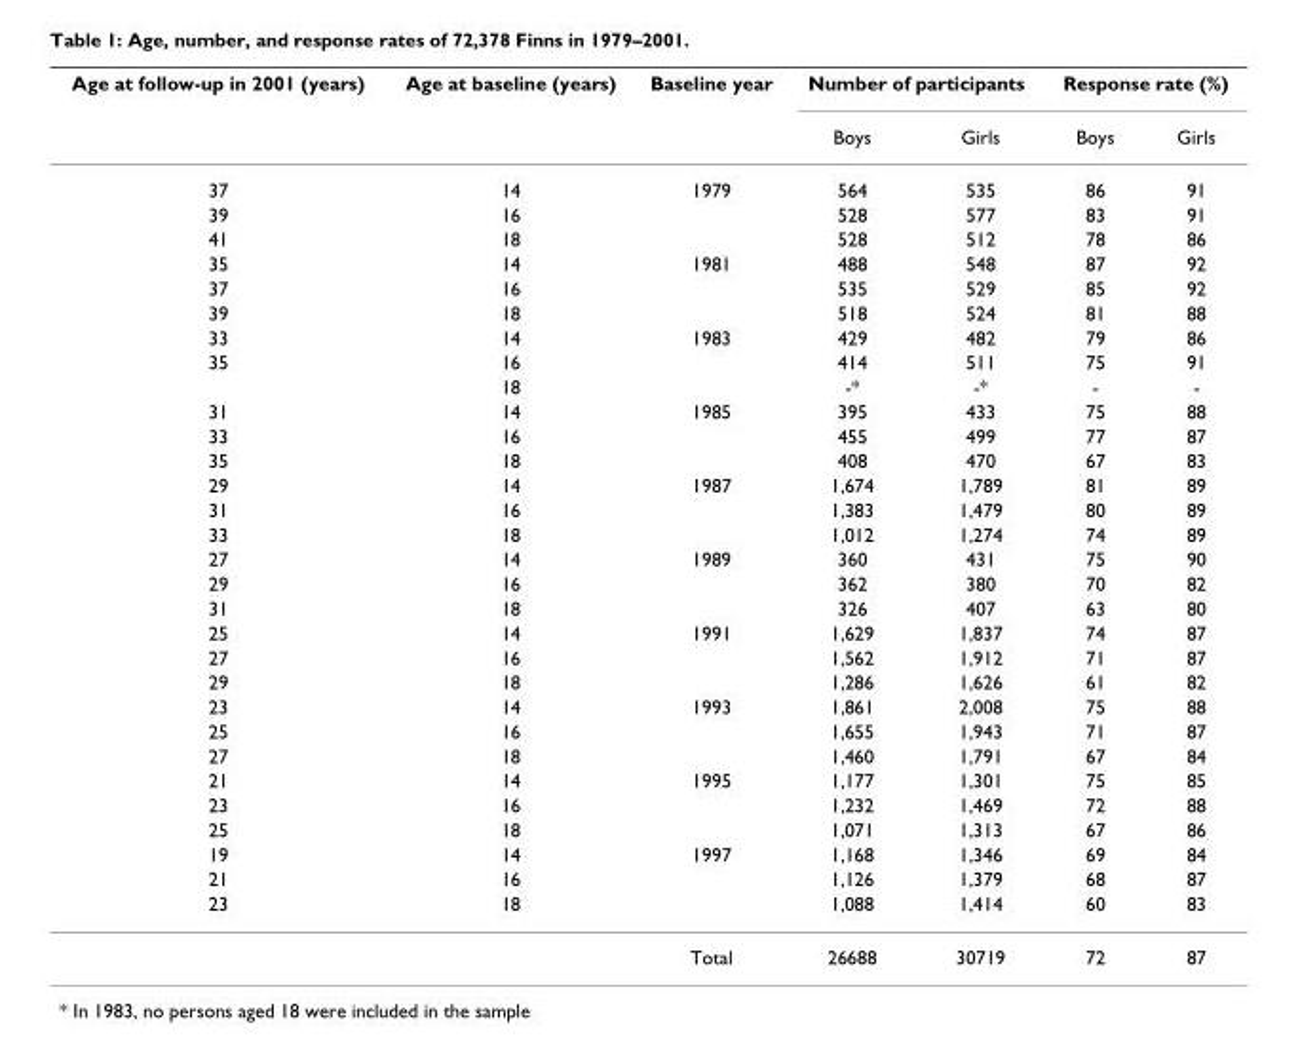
<table><thead><tr><td rowspan="2">Age at follow-up in 2001 (years)</td><td rowspan="2">Age at baseline (years)</td><td rowspan="2">Baseline year</td><td colspan="2">Number of participants</td><td colspan="2">Response rate (%)</td></tr><tr><td>Boys</td><td>Girls</td><td>Boys</td><td>Girls</td></tr></thead><tbody><tr><td>37</td><td>14</td><td>1979</td><td>564</td><td>535</td><td>86</td><td>91</td></tr><tr><td>39</td><td>16</td><td></td><td>528</td><td>577</td><td>83</td><td>91</td></tr><tr><td>41</td><td>18</td><td></td><td>528</td><td>512</td><td>78</td><td>86</td></tr><tr><td>35</td><td>14</td><td>1981</td><td>488</td><td>548</td><td>87</td><td>92</td></tr><tr><td>37</td><td>16</td><td></td><td>535</td><td>529</td><td>85</td><td>92</td></tr><tr><td>39</td><td>18</td><td></td><td>518</td><td>524</td><td>81</td><td>88</td></tr><tr><td>33</td><td>14</td><td>1983</td><td>429</td><td>482</td><td>79</td><td>86</td></tr><tr><td rowspan="2">35</td><td>16</td><td></td><td>414</td><td>511</td><td>75</td><td>91</td></tr><tr><td>18</td><td></td><td>-*</td><td>-*</td><td>-</td><td>-</td></tr><tr><td>31</td><td>14</td><td>1985</td><td>395</td><td>433</td><td>75</td><td>88</td></tr><tr><td>33</td><td>16</td><td></td><td>455</td><td>499</td><td>77</td><td>87</td></tr><tr><td>35</td><td>18</td><td></td><td>408</td><td>470</td><td>67</td><td>83</td></tr><tr><td>29</td><td>14</td><td>1987</td><td>1,674</td><td>1,789</td><td>81</td><td>89</td></tr><tr><td>31</td><td>16</td><td></td><td>1,383</td><td>1,479</td><td>80</td><td>89</td></tr><tr><td>33</td><td>18</td><td></td><td>1,012</td><td>1,274</td><td>74</td><td>89</td></tr><tr><td>27</td><td>14</td><td>1989</td><td>360</td><td>431</td><td>75</td><td>90</td></tr><tr><td>29</td><td>16</td><td></td><td>362</td><td>380</td><td>70</td><td>82</td></tr><tr><td>31</td><td>18</td><td></td><td>326</td><td>407</td><td>63</td><td>80</td></tr><tr><td>25</td><td>14</td><td>1991</td><td>1,629</td><td>1,837</td><td>74</td><td>87</td></tr><tr><td>27</td><td>16</td><td></td><td>1,562</td><td>1,912</td><td>71</td><td>87</td></tr><tr><td>29</td><td>18</td><td></td><td>1,286</td><td>1,626</td><td>61</td><td>82</td></tr><tr><td>23</td><td>14</td><td>1993</td><td>1,861</td><td>2,008</td><td>75</td><td>88</td></tr><tr><td>25</td><td>16</td><td></td><td>1,655</td><td>1,943</td><td>71</td><td>87</td></tr><tr><td>27</td><td>18</td><td></td><td>1,460</td><td>1,791</td><td>67</td><td>84</td></tr><tr><td>21</td><td>14</td><td>1995</td><td>1,177</td><td>1,301</td><td>75</td><td>85</td></tr><tr><td>23</td><td>16</td><td></td><td>1,232</td><td>1,469</td><td>72</td><td>88</td></tr><tr><td>25</td><td>18</td><td></td><td>1,071</td><td>1,313</td><td>67</td><td>86</td></tr><tr><td>19</td><td>14</td><td>1997</td><td>1,168</td><td>1,346</td><td>69</td><td>84</td></tr><tr><td>21</td><td>16</td><td></td><td>1,126</td><td>1,379</td><td>68</td><td>87</td></tr><tr><td rowspan="2">23</td><td>18</td><td></td><td>1,088</td><td>1,414</td><td>60</td><td>83</td></tr><tr><td></td><td>Total</td><td>26688</td><td>30719</td><td>72</td><td>87</td></tr></tbody></table>